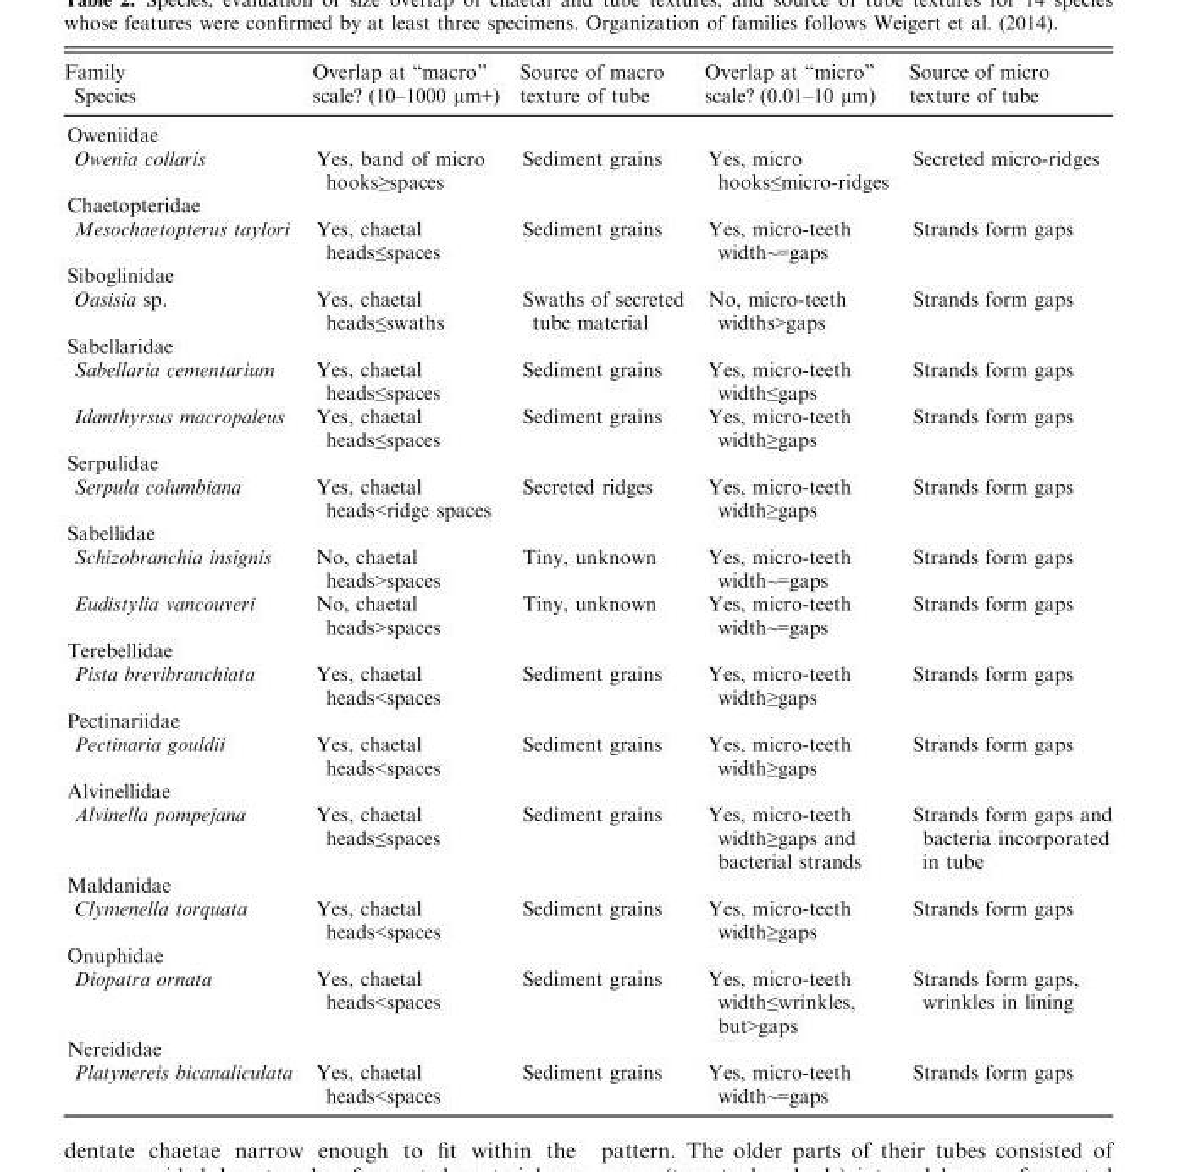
<table><thead><tr><td>Family Species</td><td>Overlap at “macro” scale? (10–1000 μm+)</td><td>Source of macro texture of tube</td><td>Overlap at “micro” scale? (0.01–10 μm)</td><td>Source of micro texture of tube</td></tr></thead><tbody><tr><td colspan="5">Oweniidae</td></tr><tr><td>Owenia collaris</td><td>Yes, band of micro hooks≥spaces</td><td>Sediment grains</td><td>Yes, micro hooks≤micro-ridges</td><td>Secreted micro-ridges</td></tr><tr><td colspan="5">Chaetopteridae</td></tr><tr><td>Mesochaetopterus taylori</td><td>Yes, chaetal heads≤spaces</td><td>Sediment grains</td><td>Yes, micro-teeth width~=gaps</td><td>Strands form gaps</td></tr><tr><td colspan="5">Siboglinidae</td></tr><tr><td>Oasisia sp.</td><td>Yes, chaetal heads≤swaths</td><td>Swaths of secreted tube material</td><td>No, micro-teeth widths&gt;gaps</td><td>Strands form gaps</td></tr><tr><td colspan="5">Sabellaridae</td></tr><tr><td>Sabellaria cementarium</td><td>Yes, chaetal heads≤spaces</td><td>Sediment grains</td><td>Yes, micro-teeth width≤gaps</td><td>Strands form gaps</td></tr><tr><td>Idanthyrsus macropaleus</td><td>Yes, chaetal heads≤spaces</td><td>Sediment grains</td><td>Yes, micro-teeth width≥gaps</td><td>Strands form gaps</td></tr><tr><td colspan="5">Serpulidae</td></tr><tr><td>Serpula columbiana</td><td>Yes, chaetal heads&lt;ridge spaces</td><td>Secreted ridges</td><td>Yes, micro-teeth width≥gaps</td><td>Strands form gaps</td></tr><tr><td colspan="5">Sabellidae</td></tr><tr><td>Schizobranchia insignis</td><td>No, chaetal heads&gt;spaces</td><td>Tiny, unknown</td><td>Yes, micro-teeth width~=gaps</td><td>Strands form gaps</td></tr><tr><td>Eudistylia vancouveri</td><td>No, chaetal heads&gt;spaces</td><td>Tiny, unknown</td><td>Yes, micro-teeth width~=gaps</td><td>Strands form gaps</td></tr><tr><td colspan="5">Terebellidae</td></tr><tr><td>Pista brevibranchiata</td><td>Yes, chaetal heads&lt;spaces</td><td>Sediment grains</td><td>Yes, micro-teeth width≥gaps</td><td>Strands form gaps</td></tr><tr><td colspan="5">Pectinariidae</td></tr><tr><td>Pectinaria gouldii</td><td>Yes, chaetal heads&lt;spaces</td><td>Sediment grains</td><td>Yes, micro-teeth width≥gaps</td><td>Strands form gaps</td></tr><tr><td colspan="5">Alvinellidae</td></tr><tr><td>Alvinella pompejana</td><td>Yes, chaetal heads≤spaces</td><td>Sediment grains</td><td>Yes, micro-teeth width≥gaps and bacterial strands</td><td>Strands form gaps and bacteria incorporated in tube</td></tr><tr><td colspan="5">Maldanidae</td></tr><tr><td>Clymenella torquata</td><td>Yes, chaetal heads&lt;spaces</td><td>Sediment grains</td><td>Yes, micro-teeth width≥gaps</td><td>Strands form gaps</td></tr><tr><td colspan="5">Onuphidae</td></tr><tr><td>Diopatra ornata</td><td>Yes, chaetal heads&lt;spaces</td><td>Sediment grains</td><td>Yes, micro-teeth width≤wrinkles, but&gt;gaps</td><td>Strands form gaps, wrinkles in lining</td></tr><tr><td colspan="5">Nereididae</td></tr><tr><td>Platynereis bicanaliculata</td><td>Yes, chaetal heads&lt;spaces</td><td>Sediment grains</td><td>Yes, micro-teeth width~=gaps</td><td>Strands form gaps</td></tr></tbody></table>